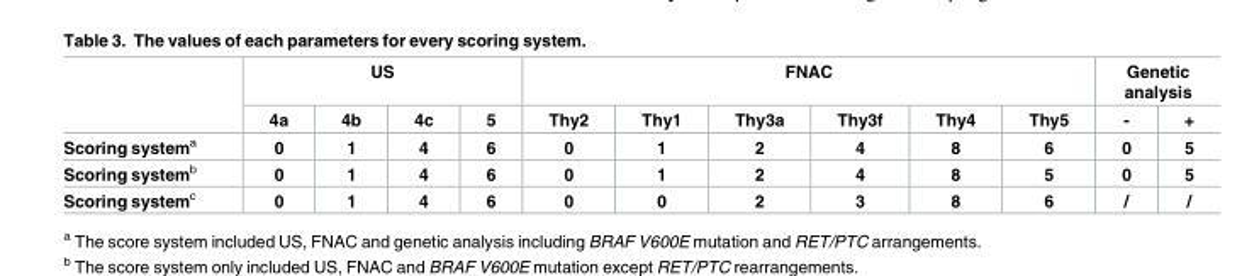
<table><thead><tr><td rowspan="2"></td><td colspan="4">US</td><td colspan="6">FNAC</td><td colspan="2">Genetic analysis</td></tr><tr><td>4a</td><td>4b</td><td>4c</td><td>5</td><td>Thy2</td><td>Thy1</td><td>Thy3a</td><td>Thy3f</td><td>Thy4</td><td>Thy5</td><td>-</td><td>+</td></tr></thead><tbody><tr><td>Scoring system<sup>a</sup></td><td>0</td><td>1</td><td>4</td><td>6</td><td>0</td><td>1</td><td>2</td><td>4</td><td>8</td><td>6</td><td>0</td><td>5</td></tr><tr><td>Scoring system<sup>b</sup></td><td>0</td><td>1</td><td>4</td><td>6</td><td>0</td><td>1</td><td>2</td><td>4</td><td>8</td><td>5</td><td>0</td><td>5</td></tr><tr><td>Scoring system<sup>c</sup></td><td>0</td><td>1</td><td>4</td><td>6</td><td>0</td><td>0</td><td>2</td><td>3</td><td>8</td><td>6</td><td>/</td><td>/</td></tr></tbody></table>